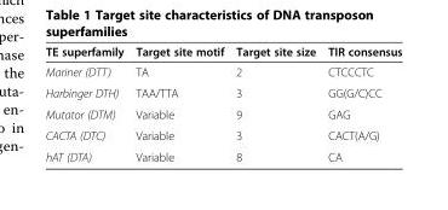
<table><thead><tr><td>TE superfamily</td><td>Target site motif</td><td>Target site size</td><td>TIR consensus</td></tr></thead><tbody><tr><td>Mariner (DTT)</td><td>TA</td><td>2</td><td>CTCCCTC</td></tr><tr><td>Harbinger DTH)</td><td>TAA/TTA</td><td>3</td><td>GG(G/C)CC</td></tr><tr><td>Mutator (DTM)</td><td>Variable</td><td>9</td><td>GAG</td></tr><tr><td>CACTA (DTC)</td><td>Variable</td><td>3</td><td>CACT(A/G)</td></tr><tr><td>hAT (DTA)</td><td>Variable</td><td>8</td><td>CA</td></tr></tbody></table>